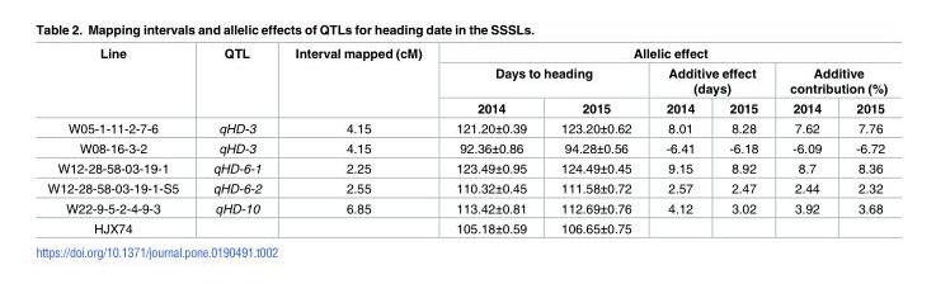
<table><thead><tr><td rowspan="3">Line</td><td rowspan="3">QTL</td><td rowspan="3">Interval mapped (cM)</td><td colspan="6">Allelic effect</td></tr><tr><td colspan="2">Days to heading</td><td colspan="2">Additive effect (days)</td><td colspan="2">Additive contribution (%)</td></tr><tr><td>2014</td><td>2015</td><td>2014</td><td>2015</td><td>2014</td><td>2015</td></tr></thead><tbody><tr><td>W05-1-11-2-7-6</td><td>qHD-3</td><td>4.15</td><td>121.20±0.39</td><td>123.20±0.62</td><td>8.01</td><td>8.28</td><td>7.62</td><td>7.76</td></tr><tr><td>W08-16-3-2</td><td>qHD-3</td><td>4.15</td><td>92.36±0.86</td><td>94.28±0.56</td><td>-6.41</td><td>-6.18</td><td>-6.09</td><td>-6.72</td></tr><tr><td>W12-28-58-03-19-1</td><td>qHD-6-1</td><td>2.25</td><td>123.49±0.95</td><td>124.49±0.45</td><td>9.15</td><td>8.92</td><td>8.7</td><td>8.36</td></tr><tr><td>W12-28-58-03-19-1-S5</td><td>qHD-6-2</td><td>2.55</td><td>110.32±0.45</td><td>111.58±0.72</td><td>2.57</td><td>2.47</td><td>2.44</td><td>2.32</td></tr><tr><td>W22-9-5-2-4-9-3</td><td>qHD-10</td><td>6.85</td><td>113.42±0.81</td><td>112.69±0.76</td><td>4.12</td><td>3.02</td><td>3.92</td><td>3.68</td></tr><tr><td>HJX74</td><td></td><td></td><td>105.18±0.59</td><td>106.65±0.75</td><td></td><td></td><td></td><td></td></tr></tbody></table>